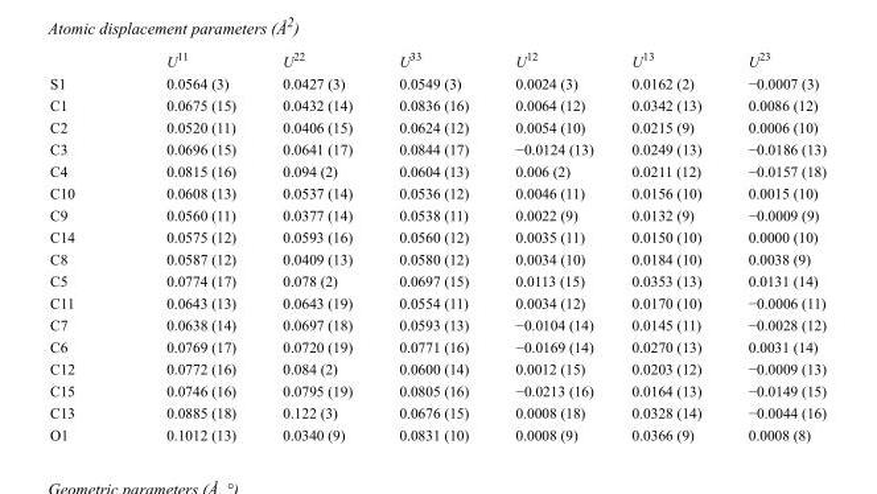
<table><thead><tr><td></td><td>U<sup>11</sup></td><td>U<sup>22</sup></td><td>U<sup>33</sup></td><td>U<sup>12</sup></td><td>U<sup>13</sup></td><td>U<sup>23</sup></td></tr></thead><tbody><tr><td>S1</td><td>0.0564 (3)</td><td>0.0427 (3)</td><td>0.0549 (3)</td><td>0.0024 (3)</td><td>0.0162 (2)</td><td>−0.0007 (3)</td></tr><tr><td>C1</td><td>0.0675 (15)</td><td>0.0432 (14)</td><td>0.0836 (16)</td><td>0.0064 (12)</td><td>0.0342 (13)</td><td>0.0086 (12)</td></tr><tr><td>C2</td><td>0.0520 (11)</td><td>0.0406 (15)</td><td>0.0624 (12)</td><td>0.0054 (10)</td><td>0.0215 (9)</td><td>0.0006 (10)</td></tr><tr><td>C3</td><td>0.0696 (15)</td><td>0.0641 (17)</td><td>0.0844 (17)</td><td>−0.0124 (13)</td><td>0.0249 (13)</td><td>−0.0186 (13)</td></tr><tr><td>C4</td><td>0.0815 (16)</td><td>0.094 (2)</td><td>0.0604 (13)</td><td>0.006 (2)</td><td>0.0211 (12)</td><td>−0.0157 (18)</td></tr><tr><td>C10</td><td>0.0608 (13)</td><td>0.0537 (14)</td><td>0.0536 (12)</td><td>0.0046 (11)</td><td>0.0156 (10)</td><td>0.0015 (10)</td></tr><tr><td>C9</td><td>0.0560 (11)</td><td>0.0377 (14)</td><td>0.0538 (11)</td><td>0.0022 (9)</td><td>0.0132 (9)</td><td>−0.0009 (9)</td></tr><tr><td>C14</td><td>0.0575 (12)</td><td>0.0593 (16)</td><td>0.0560 (12)</td><td>0.0035 (11)</td><td>0.0150 (10)</td><td>0.0000 (10)</td></tr><tr><td>C8</td><td>0.0587 (12)</td><td>0.0409 (13)</td><td>0.0580 (12)</td><td>0.0034 (10)</td><td>0.0184 (10)</td><td>0.0038 (9)</td></tr><tr><td>C5</td><td>0.0774 (17)</td><td>0.078 (2)</td><td>0.0697 (15)</td><td>0.0113 (15)</td><td>0.0353 (13)</td><td>0.0131 (14)</td></tr><tr><td>C11</td><td>0.0643 (13)</td><td>0.0643 (19)</td><td>0.0554 (11)</td><td>0.0034 (12)</td><td>0.0170 (10)</td><td>−0.0006 (11)</td></tr><tr><td>C7</td><td>0.0638 (14)</td><td>0.0697 (18)</td><td>0.0593 (13)</td><td>−0.0104 (14)</td><td>0.0145 (11)</td><td>−0.0028 (12)</td></tr><tr><td>C6</td><td>0.0769 (17)</td><td>0.0720 (19)</td><td>0.0771 (16)</td><td>−0.0169 (14)</td><td>0.0270 (13)</td><td>0.0031 (14)</td></tr><tr><td>C12</td><td>0.0772 (16)</td><td>0.084 (2)</td><td>0.0600 (14)</td><td>0.0012 (15)</td><td>0.0203 (12)</td><td>−0.0009 (13)</td></tr><tr><td>C15</td><td>0.0746 (16)</td><td>0.0795 (19)</td><td>0.0805 (16)</td><td>−0.0213 (16)</td><td>0.0164 (13)</td><td>−0.0149 (15)</td></tr><tr><td>C13</td><td>0.0885 (18)</td><td>0.122 (3)</td><td>0.0676 (15)</td><td>0.0008 (18)</td><td>0.0328 (14)</td><td>−0.0044 (16)</td></tr><tr><td>O1</td><td>0.1012 (13)</td><td>0.0340 (9)</td><td>0.0831 (10)</td><td>0.0008 (9)</td><td>0.0366 (9)</td><td>0.0008 (8)</td></tr></tbody></table>